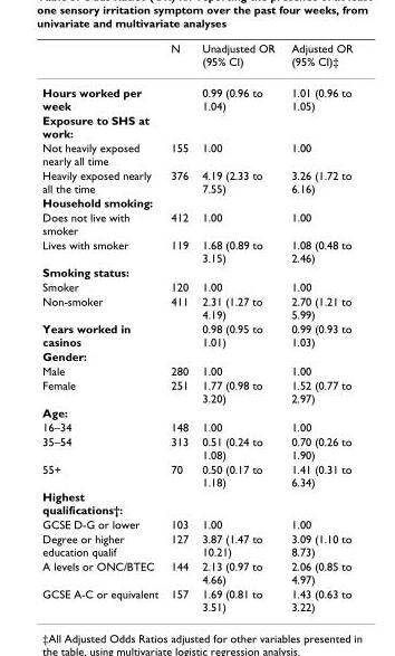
<table><thead><tr><td></td><td>N</td><td>Unadjusted OR (95% CI)</td><td>Adjusted OR (95% CI)‡</td></tr></thead><tbody><tr><td>Hours worked per week</td><td></td><td>0.99 (0.96 to 1.04)</td><td>1.01 (0.96 to 1.05)</td></tr><tr><td colspan="4">Exposure to SHS at work:</td></tr><tr><td>Not heavily exposed nearly all time</td><td>155</td><td>1.00</td><td>1.00</td></tr><tr><td>Heavily exposed nearly all the time</td><td>376</td><td>4.19 (2.33 to 7.55)</td><td>3.26 (1.72 to 6.16)</td></tr><tr><td colspan="4">Household smoking:</td></tr><tr><td>Does not live with smoker</td><td>412</td><td>1.00</td><td>1.00</td></tr><tr><td>Lives with smoker</td><td>119</td><td>1.68 (0.89 to 3.15)</td><td>1.08 (0.48 to 2.46)</td></tr><tr><td colspan="4">Smoking status:</td></tr><tr><td>Smoker</td><td>120</td><td>1.00</td><td>1.00</td></tr><tr><td>Non-smoker</td><td>411</td><td>2.31 (1.27 to 4.19)</td><td>2.70 (1.21 to 5.99)</td></tr><tr><td>Years worked in casinos</td><td></td><td>0.98 (0.95 to 1.01)</td><td>0.99 (0.93 to 1.03)</td></tr><tr><td colspan="4">Gender:</td></tr><tr><td>Male</td><td>280</td><td>1.00</td><td>1.00</td></tr><tr><td>Female</td><td>251</td><td>1.77 (0.98 to 3.20)</td><td>1.52 (0.77 to 2.97)</td></tr><tr><td colspan="4">Age:</td></tr><tr><td>16–34</td><td>148</td><td>1.00</td><td>1.00</td></tr><tr><td>35–54</td><td>313</td><td>0.51 (0.24 to 1.08)</td><td>0.70 (0.26 to 1.90)</td></tr><tr><td>55+</td><td>70</td><td>0.50 (0.17 to 1.18)</td><td>1.41 (0.31 to 6.34)</td></tr><tr><td colspan="4">Highest qualifications†:</td></tr><tr><td>GCSE D-G or lower</td><td>103</td><td>1.00</td><td>1.00</td></tr><tr><td>Degree or higher education qualif</td><td>127</td><td>3.87 (1.47 to 10.21)</td><td>3.09 (1.10 to 8.73)</td></tr><tr><td>A levels or ONC/BTEC</td><td>144</td><td>2.13 (0.97 to 4.66)</td><td>2.06 (0.85 to 4.97)</td></tr><tr><td>GCSE A-C or equivalent</td><td>157</td><td>1.69 (0.81 to 3.51)</td><td>1.43 (0.63 to 3.22)</td></tr></tbody></table>